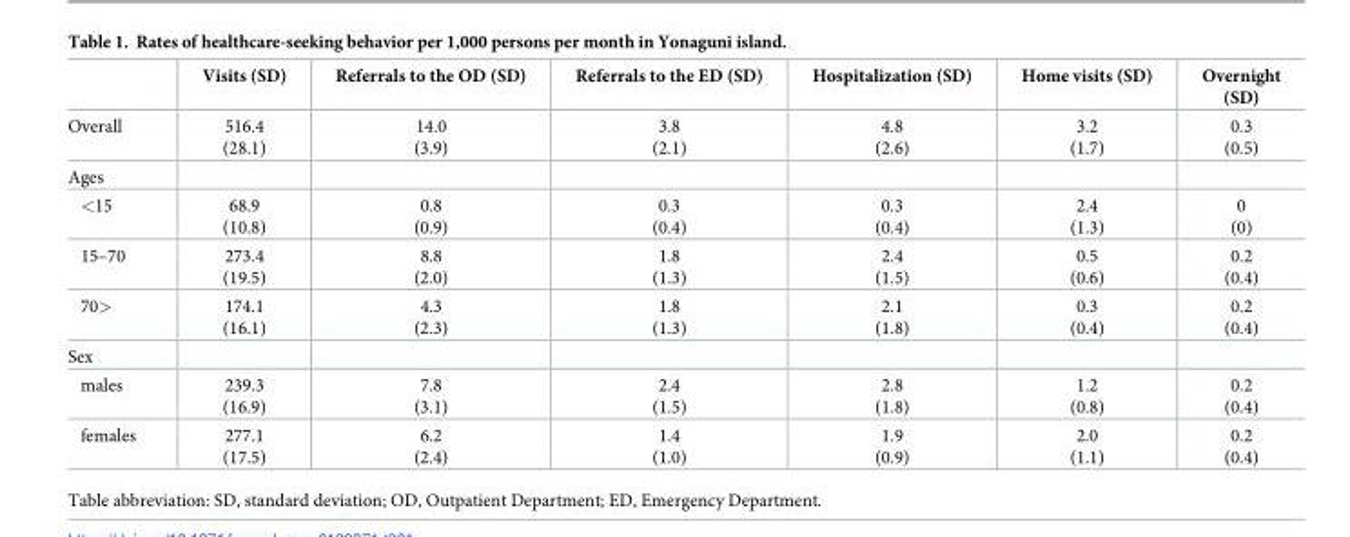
<table><thead><tr><td></td><td>Visits (SD)</td><td>Referrals to the OD (SD)</td><td>Referrals to the ED (SD)</td><td>Hospitalization (SD)</td><td>Home visits (SD)</td><td>Overnight (SD)</td></tr></thead><tbody><tr><td>Overall</td><td>516.4 (28.1)</td><td>14.0 (3.9)</td><td>3.8 (2.1)</td><td>4.8 (2.6)</td><td>3.2 (1.7)</td><td>0.3 (0.5)</td></tr><tr><td colspan="7">Ages</td></tr><tr><td>&lt;15</td><td>68.9 (10.8)</td><td>0.8 (0.9)</td><td>0.3 (0.4)</td><td>0.3 (0.4)</td><td>2.4 (1.3)</td><td>0 (0)</td></tr><tr><td>15–70</td><td>273.4 (19.5)</td><td>8.8 (2.0)</td><td>1.8 (1.3)</td><td>2.4 (1.5)</td><td>0.5 (0.6)</td><td>0.2 (0.4)</td></tr><tr><td>70&gt;</td><td>174.1 (16.1)</td><td>4.3 (2.3)</td><td>1.8 (1.3)</td><td>2.1 (1.8)</td><td>0.3 (0.4)</td><td>0.2 (0.4)</td></tr><tr><td colspan="7">Sex</td></tr><tr><td>males</td><td>239.3 (16.9)</td><td>7.8 (3.1)</td><td>2.4 (1.5)</td><td>2.8 (1.8)</td><td>1.2 (0.8)</td><td>0.2 (0.4)</td></tr><tr><td>females</td><td>277.1 (17.5)</td><td>6.2 (2.4)</td><td>1.4 (1.0)</td><td>1.9 (0.9)</td><td>2.0 (1.1)</td><td>0.2 (0.4)</td></tr></tbody></table>